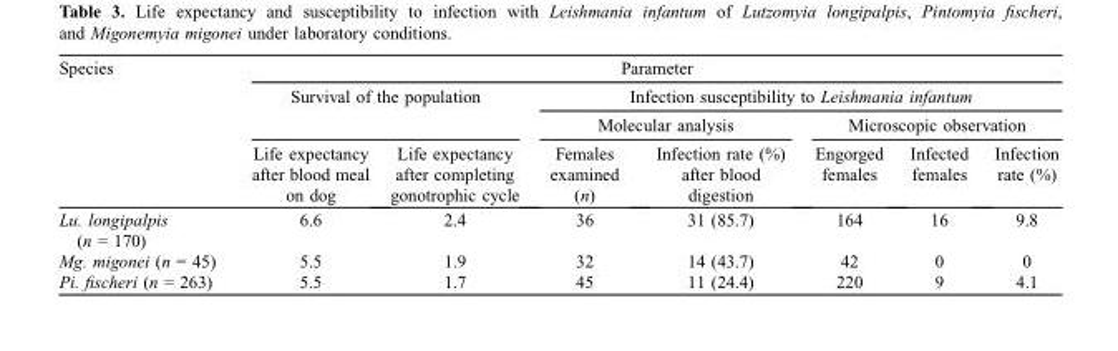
<table><thead><tr><td rowspan="4">Species</td><td colspan="7">Parameter</td></tr><tr><td colspan="2">Survival of the population</td><td colspan="5">Infection susceptibility to Leishmania infantum</td></tr><tr><td rowspan="2">Life expectancy after blood meal on dog</td><td rowspan="2">Life expectancy after completing gonotrophic cycle</td><td colspan="2">Molecular analysis</td><td colspan="3">Microscopic observation</td></tr><tr><td>Females examined (n)</td><td>Infection rate (%) after blood digestion</td><td>Engorged females</td><td>Infected females</td><td>Infection rate (%)</td></tr></thead><tbody><tr><td>Lu. longipalpis (n = 170)</td><td>6.6</td><td>2.4</td><td>36</td><td>31 (85.7)</td><td>164</td><td>16</td><td>9.8</td></tr><tr><td>Mg. migonei (n = 45)</td><td>5.5</td><td>1.9</td><td>32</td><td>14 (43.7)</td><td>42</td><td>0</td><td>0</td></tr><tr><td>Pi. fischeri (n = 263)</td><td>5.5</td><td>1.7</td><td>45</td><td>11 (24.4)</td><td>220</td><td>9</td><td>4.1</td></tr></tbody></table>